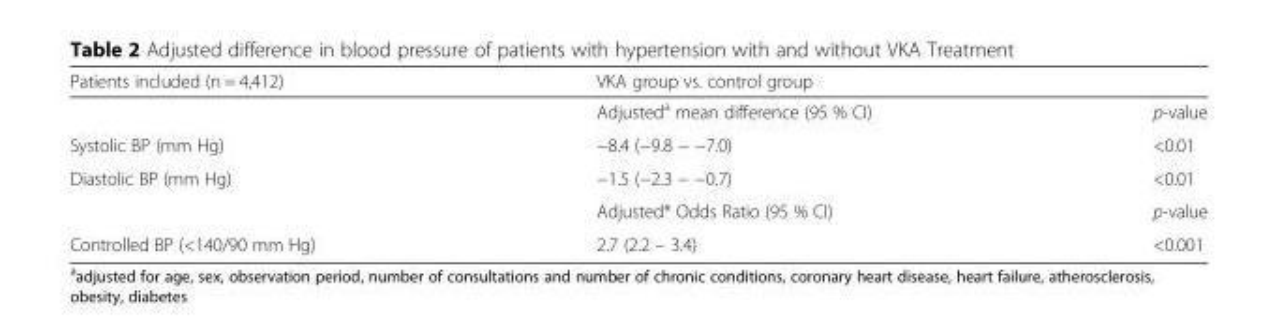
<table><thead><tr><td>Patients included (n = 4,412)</td><td>VKA group vs. control group</td><td></td></tr></thead><tbody><tr><td></td><td>Adjusted<sup>a</sup> mean difference (95 % CI)</td><td>p-value</td></tr><tr><td>Systolic BP (mm Hg)</td><td>−8.4 (−9.8 − −7.0)</td><td>&lt;0.01</td></tr><tr><td rowspan="2">Diastolic BP (mm Hg)</td><td>−1.5 (−2.3 − −0.7)</td><td>&lt;0.01</td></tr><tr><td>Adjusted* Odds Ratio (95 % CI)</td><td>p-value</td></tr><tr><td>Controlled BP (&lt;140/90 mm Hg)</td><td>2.7 (2.2 – 3.4)</td><td>&lt;0.001</td></tr></tbody></table>